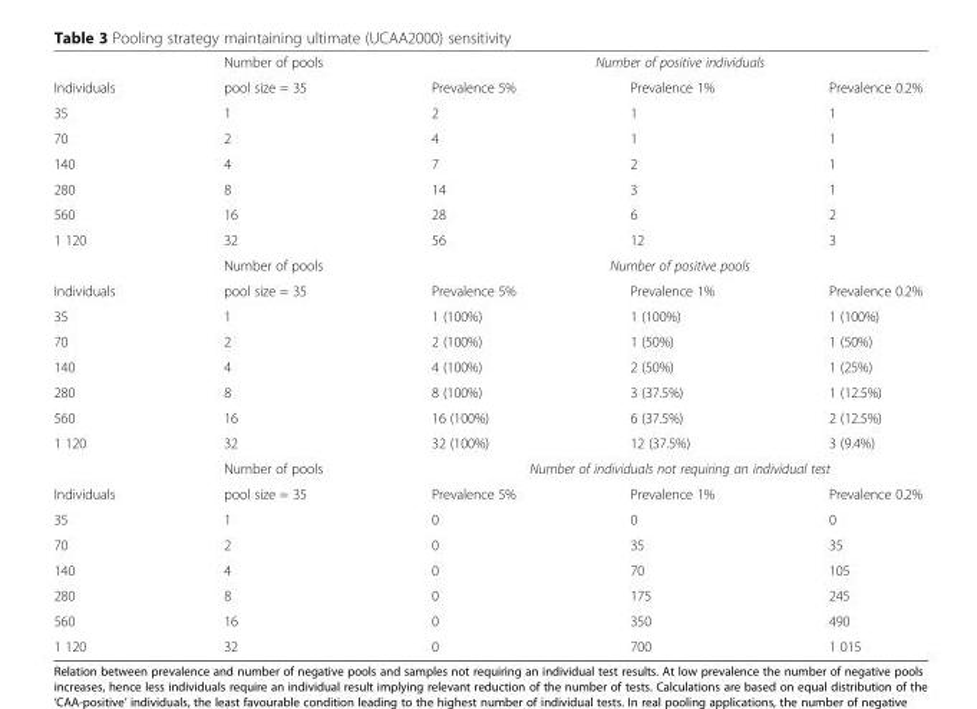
<table><thead><tr><td rowspan="2">Individuals</td><td rowspan="2">Number of pools pool size = 35</td><td colspan="3">Number of positive individuals</td></tr><tr><td>Prevalence 5%</td><td>Prevalence 1%</td><td>Prevalence 0.2%</td></tr></thead><tbody><tr><td>35</td><td>1</td><td>2</td><td>1</td><td>1</td></tr><tr><td>70</td><td>2</td><td>4</td><td>1</td><td>1</td></tr><tr><td>140</td><td>4</td><td>7</td><td>2</td><td>1</td></tr><tr><td>280</td><td>8</td><td>14</td><td>3</td><td>1</td></tr><tr><td>560</td><td>16</td><td>28</td><td>6</td><td>2</td></tr><tr><td rowspan="2">1 120</td><td>32</td><td>56</td><td>12</td><td>3</td></tr><tr><td>Number of pools</td><td colspan="3">Number of positive pools</td></tr><tr><td>Individuals</td><td>pool size = 35</td><td>Prevalence 5%</td><td>Prevalence 1%</td><td>Prevalence 0.2%</td></tr><tr><td>35</td><td>1</td><td>1 (100%)</td><td>1 (100%)</td><td>1 (100%)</td></tr><tr><td>70</td><td>2</td><td>2 (100%)</td><td>1 (50%)</td><td>1 (50%)</td></tr><tr><td>140</td><td>4</td><td>4 (100%)</td><td>2 (50%)</td><td>1 (25%)</td></tr><tr><td>280</td><td>8</td><td>8 (100%)</td><td>3 (37.5%)</td><td>1 (12.5%)</td></tr><tr><td>560</td><td>16</td><td>16 (100%)</td><td>6 (37.5%)</td><td>2 (12.5%)</td></tr><tr><td rowspan="2">1 120</td><td>32</td><td>32 (100%)</td><td>12 (37.5%)</td><td>3 (9.4%)</td></tr><tr><td>Number of pools</td><td colspan="3">Number of individuals not requiring an individual test</td></tr><tr><td>Individuals</td><td>pool size = 35</td><td>Prevalence 5%</td><td>Prevalence 1%</td><td>Prevalence 0.2%</td></tr><tr><td>35</td><td>1</td><td>0</td><td>0</td><td>0</td></tr><tr><td>70</td><td>2</td><td>0</td><td>35</td><td>35</td></tr><tr><td>140</td><td>4</td><td>0</td><td>70</td><td>105</td></tr><tr><td>280</td><td>8</td><td>0</td><td>175</td><td>245</td></tr><tr><td>560</td><td>16</td><td>0</td><td>350</td><td>490</td></tr><tr><td>1 120</td><td>32</td><td>0</td><td>700</td><td>1 015</td></tr></tbody></table>